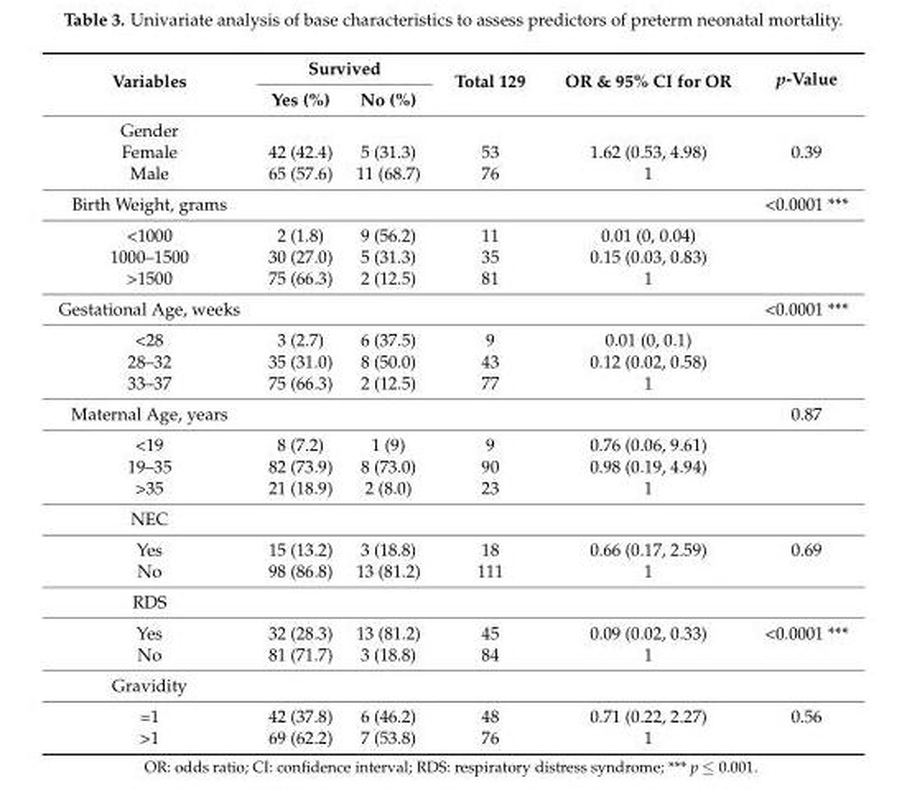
<table><thead><tr><td rowspan="2">Variables</td><td colspan="2">Survived</td><td rowspan="2">Total 129</td><td rowspan="2">OR &amp; 95% CI for OR</td><td rowspan="2">p-Value</td></tr><tr><td>Yes (%)</td><td>No (%)</td></tr></thead><tbody><tr><td colspan="6">Gender</td></tr><tr><td>Female</td><td>42 (42.4)</td><td>5 (31.3)</td><td>53</td><td>1.62 (0.53, 4.98)</td><td>0.39</td></tr><tr><td>Male</td><td>65 (57.6)</td><td>11 (68.7)</td><td>76</td><td>1</td><td></td></tr><tr><td>Birth Weight, grams</td><td></td><td></td><td></td><td></td><td>&lt;0.0001 ***</td></tr><tr><td>&lt;1000</td><td>2 (1.8)</td><td>9 (56.2)</td><td>11</td><td>0.01 (0, 0.04)</td><td></td></tr><tr><td>1000–1500</td><td>30 (27.0)</td><td>5 (31.3)</td><td>35</td><td>0.15 (0.03, 0.83)</td><td></td></tr><tr><td>&gt;1500</td><td>75 (66.3)</td><td>2 (12.5)</td><td>81</td><td>1</td><td></td></tr><tr><td>Gestational Age, weeks</td><td></td><td></td><td></td><td></td><td>&lt;0.0001 ***</td></tr><tr><td>&lt;28</td><td>3 (2.7)</td><td>6 (37.5)</td><td>9</td><td>0.01 (0, 0.1)</td><td></td></tr><tr><td>28–32</td><td>35 (31.0)</td><td>8 (50.0)</td><td>43</td><td>0.12 (0.02, 0.58)</td><td></td></tr><tr><td>33–37</td><td>75 (66.3)</td><td>2 (12.5)</td><td>77</td><td>1</td><td></td></tr><tr><td>Maternal Age, years</td><td></td><td></td><td></td><td></td><td>0.87</td></tr><tr><td>&lt;19</td><td>8 (7.2)</td><td>1 (9)</td><td>9</td><td>0.76 (0.06, 9.61)</td><td></td></tr><tr><td>19–35</td><td>82 (73.9)</td><td>8 (73.0)</td><td>90</td><td>0.98 (0.19, 4.94)</td><td></td></tr><tr><td>&gt;35</td><td>21 (18.9)</td><td>2 (8.0)</td><td>23</td><td>1</td><td></td></tr><tr><td colspan="6">NEC</td></tr><tr><td>Yes</td><td>15 (13.2)</td><td>3 (18.8)</td><td>18</td><td>0.66 (0.17, 2.59)</td><td>0.69</td></tr><tr><td>No</td><td>98 (86.8)</td><td>13 (81.2)</td><td>111</td><td>1</td><td></td></tr><tr><td colspan="6">RDS</td></tr><tr><td>Yes</td><td>32 (28.3)</td><td>13 (81.2)</td><td>45</td><td>0.09 (0.02, 0.33)</td><td>&lt;0.0001 ***</td></tr><tr><td>No</td><td>81 (71.7)</td><td>3 (18.8)</td><td>84</td><td>1</td><td></td></tr><tr><td colspan="6">Gravidity</td></tr><tr><td>=1</td><td>42 (37.8)</td><td>6 (46.2)</td><td>48</td><td>0.71 (0.22, 2.27)</td><td>0.56</td></tr><tr><td>&gt;1</td><td>69 (62.2)</td><td>7 (53.8)</td><td>76</td><td>1</td><td></td></tr></tbody></table>